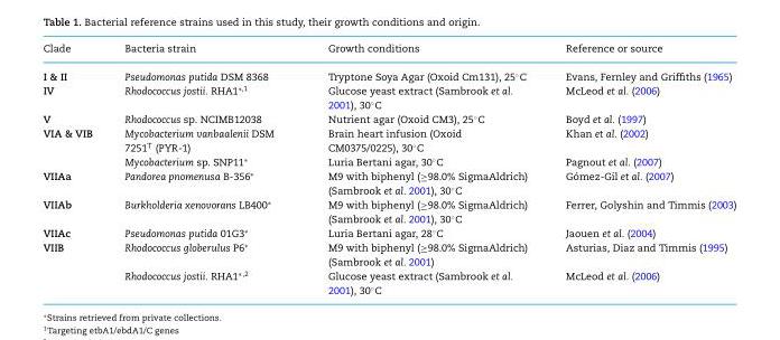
<table><thead><tr><td>Clade</td><td>Bacteria strain</td><td>Growth conditions</td><td>Reference or source</td></tr></thead><tbody><tr><td>I &amp; II</td><td>Pseudomonas putida DSM 8368</td><td>Tryptone Soya Agar (Oxoid Cm131), 25◦C</td><td>Evans, Fernley and Griffiths (1965)</td></tr><tr><td>IV</td><td>Rhodococcus jostii. RHA1∗,1</td><td>Glucose yeast extract (Sambrook et al. 2001), 30◦C</td><td>McLeod et al. (2006)</td></tr><tr><td>V</td><td>Rhodococcus sp. NCIMB12038</td><td>Nutrient agar (Oxoid CM3), 25◦C</td><td>Boyd et al. (1997)</td></tr><tr><td rowspan="2">VIA &amp; VIB</td><td>Mycobacterium vanbaalenii DSM 7251<sup>T</sup> (PYR-1)</td><td>Brain heart infusion (Oxoid CM0375/0225), 30◦C</td><td>Khan et al. (2002)</td></tr><tr><td>Mycobacterium sp. SNP11∗</td><td>Luria Bertani agar, 30◦C</td><td>Pagnout et al. (2007)</td></tr><tr><td>VIIAa</td><td>Pandorea pnomenusa B-356∗</td><td>M9 with biphenyl (≥98.0% SigmaAldrich) (Sambrook et al. 2001), 30◦C</td><td>G´omez-Gil et al. (2007)</td></tr><tr><td>VIIAb</td><td>Burkholderia xenovorans LB400∗</td><td>M9 with biphenyl (≥98.0% SigmaAldrich) (Sambrook et al. 2001), 30◦C</td><td>Ferrer, Golyshin and Timmis (2003)</td></tr><tr><td>VIIAc</td><td>Pseudomonas putida 01G3∗</td><td>Luria Bertani agar, 28◦C</td><td>Jaouen et al. (2004)</td></tr><tr><td rowspan="2">VIIB</td><td>Rhodococcus globerulus P6∗</td><td>M9 with biphenyl (≥98.0% SigmaAldrich) (Sambrook et al. 2001)</td><td>Asturias, Diaz and Timmis (1995)</td></tr><tr><td>Rhodococcus jostii. RHA1∗,2</td><td>Glucose yeast extract (Sambrook et al. 2001), 30◦C</td><td>McLeod et al. (2006)</td></tr></tbody></table>